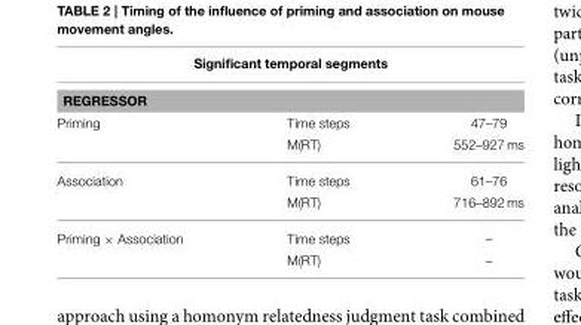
<table><thead><tr><td rowspan="2" colspan="3">Significant temporal segments REGRESSOR</td></tr><tr></tr><tr><td>Priming</td><td>Time steps</td><td>47–79</td></tr></thead><tbody><tr><td></td><td>M(RT)</td><td>552–927 ms</td></tr><tr><td rowspan="2">Association</td><td>Time steps</td><td>61–76</td></tr><tr><td>M(RT)</td><td>716–892 ms</td></tr><tr><td rowspan="2">Priming × Association</td><td>Time steps</td><td>–</td></tr><tr><td>M(RT)</td><td>–</td></tr></tbody></table>